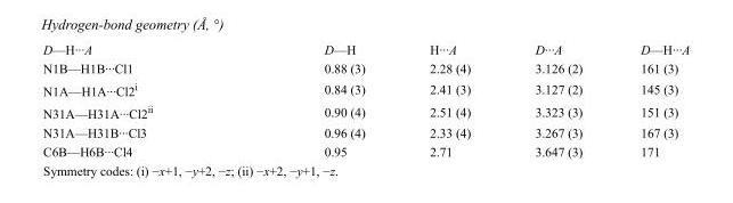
<table><tbody><tr><td>D—H···A</td><td>D—H</td><td>H···A</td><td>D···A</td><td>D—H···A</td></tr><tr><td>N1B—H1B···Cl1</td><td>0.88 (3)</td><td>2.28 (4)</td><td>3.126 (2)</td><td>161 (3)</td></tr><tr><td>N1A—H1A···Cl2<sup>i</sup></td><td>0.84 (3)</td><td>2.41 (3)</td><td>3.127 (2)</td><td>145 (3)</td></tr><tr><td>N31A—H31A···Cl2<sup>ii</sup></td><td>0.90 (4)</td><td>2.51 (4)</td><td>3.323 (3)</td><td>151 (3)</td></tr><tr><td>N31A—H31B···Cl3</td><td>0.96 (4)</td><td>2.33 (4)</td><td>3.267 (3)</td><td>167 (3)</td></tr><tr><td>C6B—H6B···Cl4</td><td>0.95</td><td>2.71</td><td>3.647 (3)</td><td>171</td></tr></tbody></table>